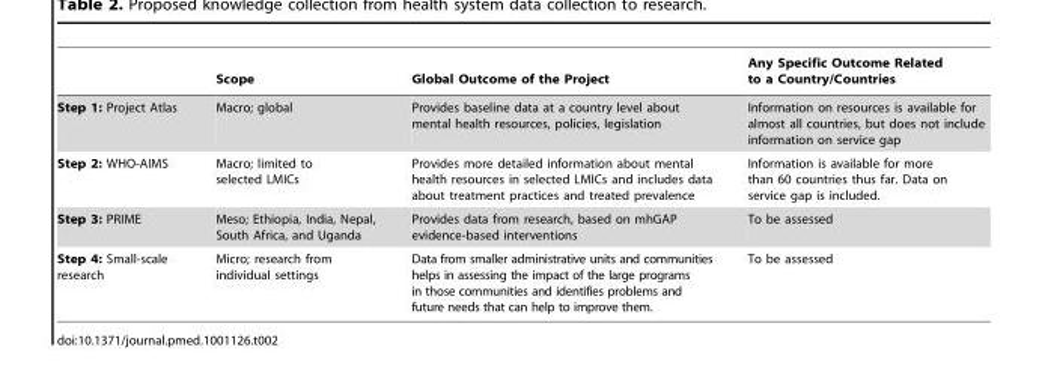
<table><thead><tr><td></td><td>Scope</td><td>Global Outcome of the Project</td><td>Any Specific Outcome Related to a Country/Countries</td></tr></thead><tbody><tr><td>Step 1: Project Atlas</td><td>Macro; global</td><td>Provides baseline data at a country level about mental health resources, policies, legislation</td><td>Information on resources is available for almost all countries, but does not include information on service gap</td></tr><tr><td>Step 2: WHO-AIMS</td><td>Macro; limited to selected LMICs</td><td>Provides more detailed information about mental health resources in selected LMICs and includes data about treatment practices and treated prevalence</td><td>Information is available for more than 60 countries thus far. Data on service gap is included.</td></tr><tr><td>Step 3: PRIME</td><td>Meso; Ethiopia, India, Nepal, South Africa, and Uganda</td><td>Provides data from research, based on mhGAP evidence-based interventions</td><td>To be assessed</td></tr><tr><td>Step 4: Small-scale research</td><td>Micro; research from individual settings</td><td>Data from smaller administrative units and communities helps in assessing the impact of the large programs in those communities and identifies problems and future needs that can help to improve them.</td><td>To be assessed</td></tr></tbody></table>